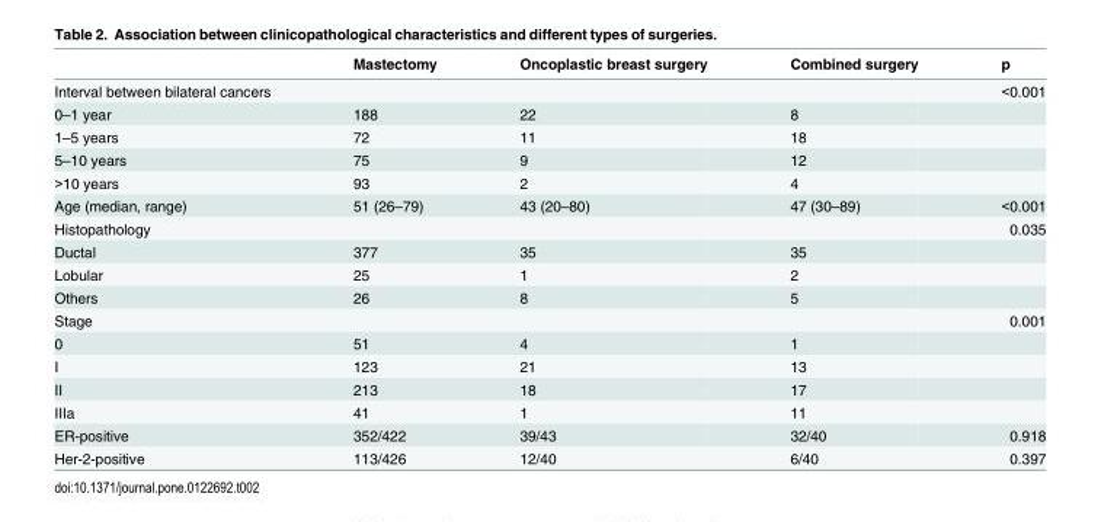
<table><thead><tr><td></td><td>Mastectomy</td><td>Oncoplastic breast surgery</td><td>Combined surgery</td><td>p</td></tr></thead><tbody><tr><td>Interval between bilateral cancers</td><td></td><td></td><td></td><td>&lt;0.001</td></tr><tr><td>0–1 year</td><td>188</td><td>22</td><td>8</td><td></td></tr><tr><td>1–5 years</td><td>72</td><td>11</td><td>18</td><td></td></tr><tr><td>5–10 years</td><td>75</td><td>9</td><td>12</td><td></td></tr><tr><td>&gt;10 years</td><td>93</td><td>2</td><td>4</td><td></td></tr><tr><td>Age (median, range)</td><td>51 (26–79)</td><td>43 (20–80)</td><td>47 (30–89)</td><td>&lt;0.001</td></tr><tr><td>Histopathology</td><td></td><td></td><td></td><td>0.035</td></tr><tr><td>Ductal</td><td>377</td><td>35</td><td>35</td><td></td></tr><tr><td>Lobular</td><td>25</td><td>1</td><td>2</td><td></td></tr><tr><td>Others</td><td>26</td><td>8</td><td>5</td><td></td></tr><tr><td>Stage</td><td></td><td></td><td></td><td>0.001</td></tr><tr><td>0</td><td>51</td><td>4</td><td>1</td><td></td></tr><tr><td>I</td><td>123</td><td>21</td><td>13</td><td></td></tr><tr><td>II</td><td>213</td><td>18</td><td>17</td><td></td></tr><tr><td>IIIa</td><td>41</td><td>1</td><td>11</td><td></td></tr><tr><td>ER-positive</td><td>352/422</td><td>39/43</td><td>32/40</td><td>0.918</td></tr><tr><td>Her-2-positive</td><td>113/426</td><td>12/40</td><td>6/40</td><td>0.397</td></tr></tbody></table>